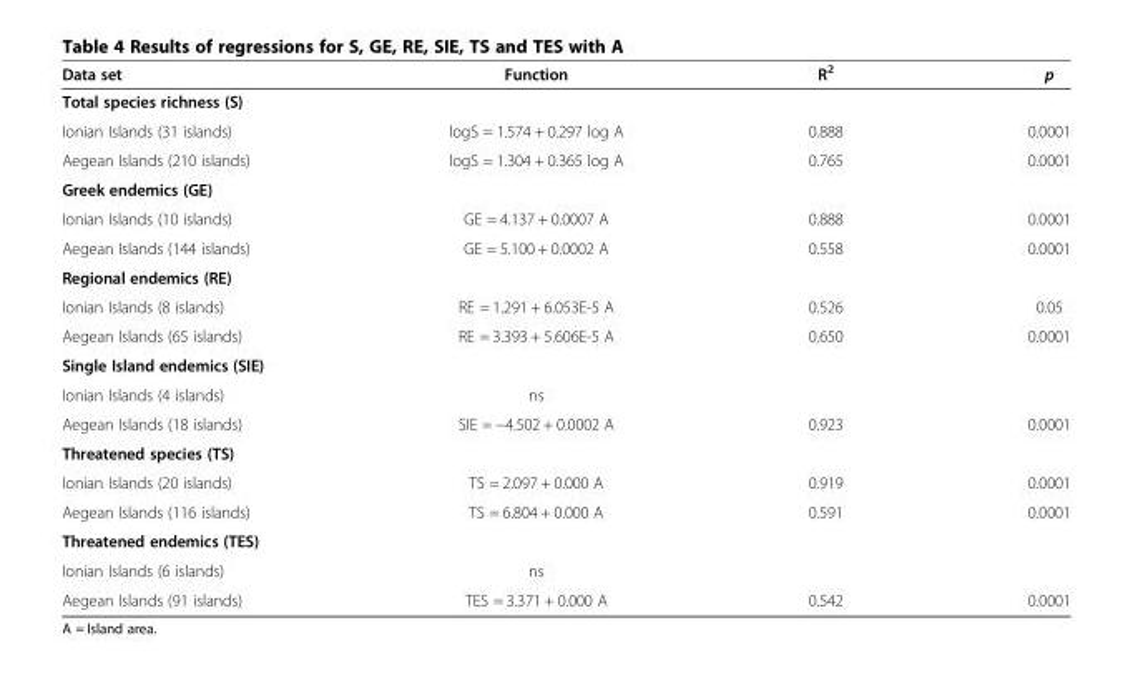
<table><thead><tr><td>Data set</td><td>Function</td><td>R<sup>2</sup></td><td>p</td></tr></thead><tbody><tr><td colspan="4">Total species richness (S)</td></tr><tr><td>Ionian Islands (31 islands)</td><td>logS = 1.574 + 0.297 log A</td><td>0.888</td><td>0.0001</td></tr><tr><td>Aegean Islands (210 islands)</td><td>logS = 1.304 + 0.365 log A</td><td>0.765</td><td>0.0001</td></tr><tr><td colspan="4">Greek endemics (GE)</td></tr><tr><td>Ionian Islands (10 islands)</td><td>GE = 4.137 + 0.0007 A</td><td>0.888</td><td>0.0001</td></tr><tr><td>Aegean Islands (144 islands)</td><td>GE = 5.100 + 0.0002 A</td><td>0.558</td><td>0.0001</td></tr><tr><td colspan="4">Regional endemics (RE)</td></tr><tr><td>Ionian Islands (8 islands)</td><td>RE = 1.291 + 6.053E-5 A</td><td>0.526</td><td>0.05</td></tr><tr><td>Aegean Islands (65 islands)</td><td>RE = 3.393 + 5.606E-5 A</td><td>0.650</td><td>0.0001</td></tr><tr><td colspan="4">Single Island endemics (SIE)</td></tr><tr><td>Ionian Islands (4 islands)</td><td>ns</td><td colspan="2"></td></tr><tr><td>Aegean Islands (18 islands)</td><td>SIE = −4.502 + 0.0002 A</td><td>0.923</td><td>0.0001</td></tr><tr><td colspan="4">Threatened species (TS)</td></tr><tr><td>Ionian Islands (20 islands)</td><td>TS = 2.097 + 0.000 A</td><td>0.919</td><td>0.0001</td></tr><tr><td>Aegean Islands (116 islands)</td><td>TS = 6.804 + 0.000 A</td><td>0.591</td><td>0.0001</td></tr><tr><td colspan="4">Threatened endemics (TES)</td></tr><tr><td>Ionian Islands (6 islands)</td><td>ns</td><td colspan="2"></td></tr><tr><td>Aegean Islands (91 islands)</td><td>TES = 3.371 + 0.000 A</td><td>0.542</td><td>0.0001</td></tr></tbody></table>